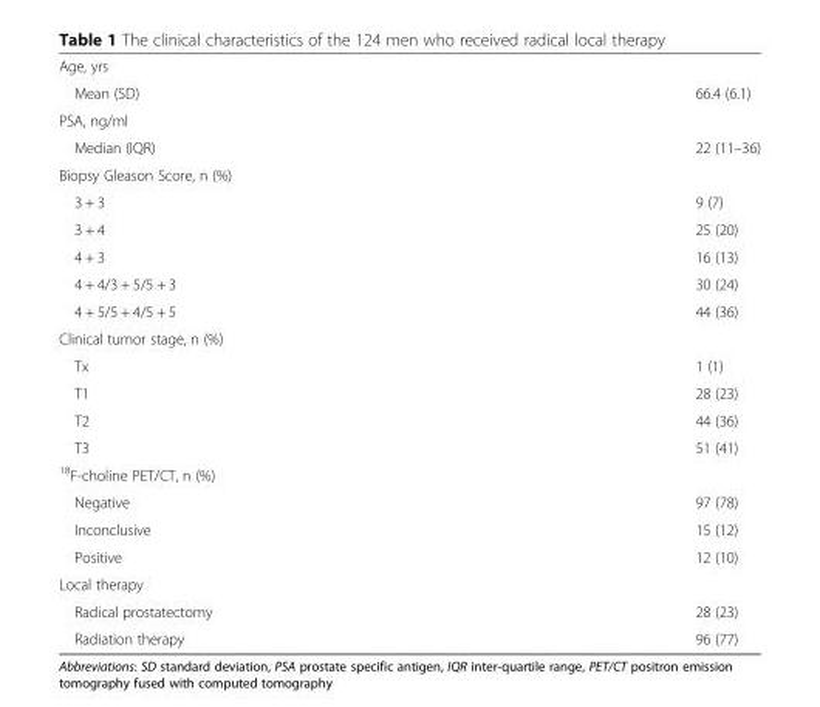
<table><tbody><tr><td colspan="2">Age, yrs</td></tr><tr><td>Mean (SD)</td><td>66.4 (6.1)</td></tr><tr><td colspan="2">PSA, ng/ml</td></tr><tr><td>Median (IQR)</td><td>22 (11–36)</td></tr><tr><td colspan="2">Biopsy Gleason Score, n (%)</td></tr><tr><td>3 + 3</td><td>9 (7)</td></tr><tr><td>3 + 4</td><td>25 (20)</td></tr><tr><td>4 + 3</td><td>16 (13)</td></tr><tr><td>4 + 4/3 + 5/5 + 3</td><td>30 (24)</td></tr><tr><td>4 + 5/5 + 4/5 + 5</td><td>44 (36)</td></tr><tr><td colspan="2">Clinical tumor stage, n (%)</td></tr><tr><td>Tx</td><td>1 (1)</td></tr><tr><td>T1</td><td>28 (23)</td></tr><tr><td>T2</td><td>44 (36)</td></tr><tr><td>T3</td><td>51 (41)</td></tr><tr><td colspan="2"><sup>18</sup>F-choline PET/CT, n (%)</td></tr><tr><td>Negative</td><td>97 (78)</td></tr><tr><td>Inconclusive</td><td>15 (12)</td></tr><tr><td>Positive</td><td>12 (10)</td></tr><tr><td colspan="2">Local therapy</td></tr><tr><td>Radical prostatectomy</td><td>28 (23)</td></tr><tr><td>Radiation therapy</td><td>96 (77)</td></tr></tbody></table>